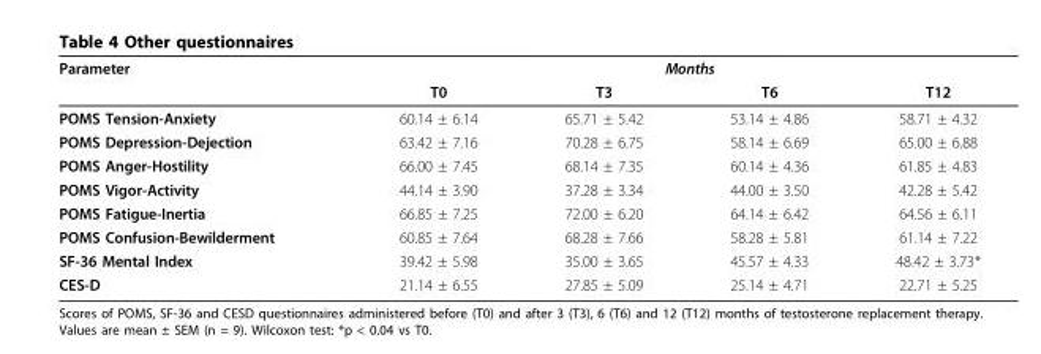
<table><thead><tr><td rowspan="2">Parameter</td><td colspan="4">Months</td></tr><tr><td>T0</td><td>T3</td><td>T6</td><td>T12</td></tr></thead><tbody><tr><td>POMS Tension-Anxiety</td><td>60.14 ± 6.14</td><td>65.71 ± 5.42</td><td>53.14 ± 4.86</td><td>58.71 ± 4.32</td></tr><tr><td>POMS Depression-Dejection</td><td>63.42 ± 7.16</td><td>70.28 ± 6.75</td><td>58.14 ± 6.69</td><td>65.00 ± 6.88</td></tr><tr><td>POMS Anger-Hostility</td><td>66.00 ± 7.45</td><td>68.14 ± 7.35</td><td>60.14 ± 4.36</td><td>61.85 ± 4.83</td></tr><tr><td>POMS Vigor-Activity</td><td>44.14 ± 3.90</td><td>37.28 ± 3.34</td><td>44.00 ± 3.50</td><td>42.28 ± 5.42</td></tr><tr><td>POMS Fatigue-Inertia</td><td>66.85 ± 7.25</td><td>72.00 ± 6.20</td><td>64.14 ± 6.42</td><td>64.56 ± 6.11</td></tr><tr><td>POMS Confusion-Bewilderment</td><td>60.85 ± 7.64</td><td>68.28 ± 7.66</td><td>58.28 ± 5.81</td><td>61.14 ± 7.22</td></tr><tr><td>SF-36 Mental Index</td><td>39.42 ± 5.98</td><td>35.00 ± 3.65</td><td>45.57 ± 4.33</td><td>48.42 ± 3.73*</td></tr><tr><td>CES-D</td><td>21.14 ± 6.55</td><td>27.85 ± 5.09</td><td>25.14 ± 4.71</td><td>22.71 ± 5.25</td></tr></tbody></table>